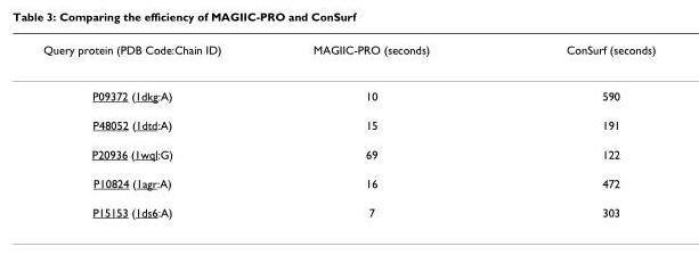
<table><thead><tr><td>Query protein (PDB Code:Chain ID)</td><td>MAGIIC-PRO (seconds)</td><td>ConSurf (seconds)</td></tr></thead><tbody><tr><td>P09372 (1dkg:A)</td><td>10</td><td>590</td></tr><tr><td>P48052 (1dtd:A)</td><td>15</td><td>191</td></tr><tr><td>P20936 (1wql:G)</td><td>69</td><td>122</td></tr><tr><td>P10824 (1agr:A)</td><td>16</td><td>472</td></tr><tr><td>P15153 (1ds6:A)</td><td>7</td><td>303</td></tr></tbody></table>